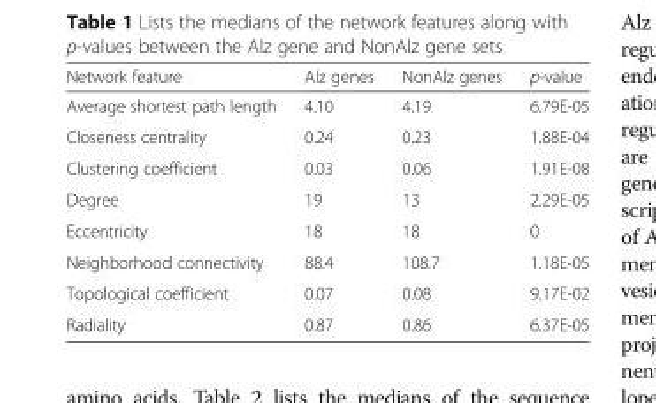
<table><thead><tr><td>Network feature</td><td>Alz genes</td><td>NonAlz genes</td><td>p-value</td></tr></thead><tbody><tr><td>Average shortest path length</td><td>4.10</td><td>4.19</td><td>6.79E-05</td></tr><tr><td>Closeness centrality</td><td>0.24</td><td>0.23</td><td>1.88E-04</td></tr><tr><td>Clustering coefficient</td><td>0.03</td><td>0.06</td><td>1.91E-08</td></tr><tr><td>Degree</td><td>19</td><td>13</td><td>2.29E-05</td></tr><tr><td>Eccentricity</td><td>18</td><td>18</td><td>0</td></tr><tr><td>Neighborhood connectivity</td><td>88.4</td><td>108.7</td><td>1.18E-05</td></tr><tr><td>Topological coefficient</td><td>0.07</td><td>0.08</td><td>9.17E-02</td></tr><tr><td>Radiality</td><td>0.87</td><td>0.86</td><td>6.37E-05</td></tr></tbody></table>